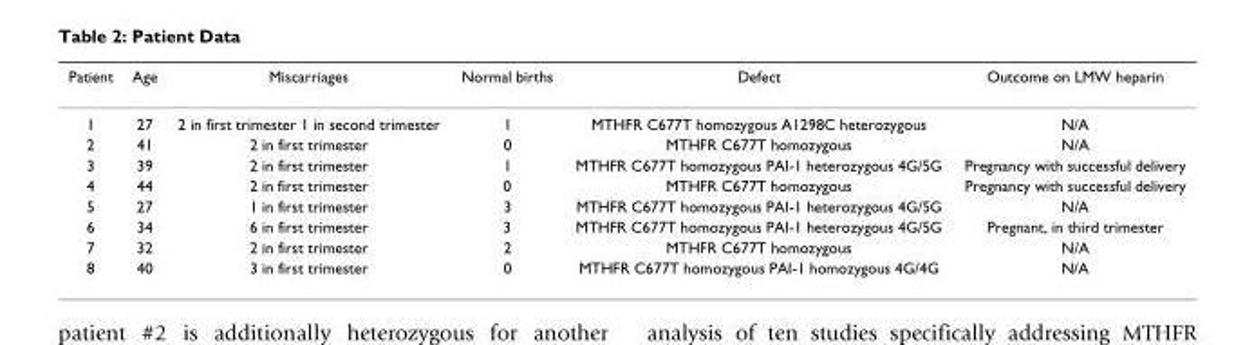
<table><thead><tr><td>Patient</td><td>Age</td><td>Miscarriages</td><td>Normal births</td><td>Defect</td><td>Outcome on LMW heparin</td></tr></thead><tbody><tr><td>1</td><td>27</td><td>2 in first trimester 1 in second trimester</td><td>1</td><td>MTHFR C677T homozygous A1298C heterozygous</td><td>N/A</td></tr><tr><td>2</td><td>41</td><td>2 in first trimester</td><td>0</td><td>MTHFR C677T homozygous</td><td>N/A</td></tr><tr><td>3</td><td>39</td><td>2 in first trimester</td><td>1</td><td>MTHFR C677T homozygous PAI-1 heterozygous 4G/5G</td><td>Pregnancy with successful delivery</td></tr><tr><td>4</td><td>44</td><td>2 in first trimester</td><td>0</td><td>MTHFR C677T homozygous</td><td>Pregnancy with successful delivery</td></tr><tr><td>5</td><td>27</td><td>1 in first trimester</td><td>3</td><td>MTHFR C677T homozygous PAI-1 heterozygous 4G/5G</td><td>N/A</td></tr><tr><td>6</td><td>34</td><td>6 in first trimester</td><td>3</td><td>MTHFR C677T homozygous PAI-1 heterozygous 4G/5G</td><td>Pregnant, in third trimester</td></tr><tr><td>7</td><td>32</td><td>2 in first trimester</td><td>2</td><td>MTHFR C677T homozygous</td><td>N/A</td></tr><tr><td>8</td><td>40</td><td>3 in first trimester</td><td>0</td><td>MTHFR C677T homozygous PAI-1 homozygous 4G/4G</td><td>N/A</td></tr></tbody></table>